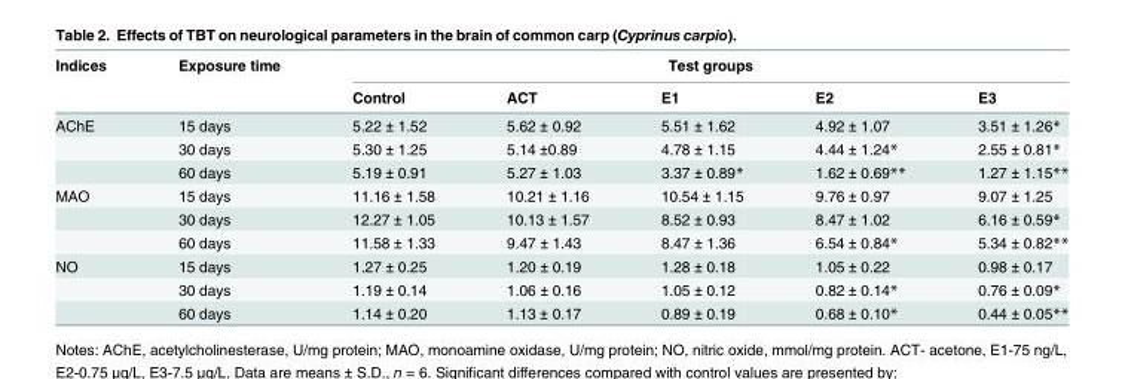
<table><thead><tr><td rowspan="2">Indices</td><td rowspan="2">Exposure time</td><td colspan="5">Test groups</td></tr><tr><td>Control</td><td>ACT</td><td>E1</td><td>E2</td><td>E3</td></tr></thead><tbody><tr><td rowspan="3">AChE</td><td>15 days</td><td>5.22 ± 1.52</td><td>5.62 ± 0.92</td><td>5.51 ± 1.62</td><td>4.92 ± 1.07</td><td>3.51 ± 1.26*</td></tr><tr><td>30 days</td><td>5.30 ± 1.25</td><td>5.14 ±0.89</td><td>4.78 ± 1.15</td><td>4.44 ± 1.24*</td><td>2.55 ± 0.81*</td></tr><tr><td>60 days</td><td>5.19 ± 0.91</td><td>5.27 ± 1.03</td><td>3.37 ± 0.89*</td><td>1.62 ± 0.69**</td><td>1.27 ± 1.15**</td></tr><tr><td rowspan="3">MAO</td><td>15 days</td><td>11.16 ± 1.58</td><td>10.21 ± 1.16</td><td>10.54 ± 1.15</td><td>9.76 ± 0.97</td><td>9.07 ± 1.25</td></tr><tr><td>30 days</td><td>12.27 ± 1.05</td><td>10.13 ± 1.57</td><td>8.52 ± 0.93</td><td>8.47 ± 1.02</td><td>6.16 ± 0.59*</td></tr><tr><td>60 days</td><td>11.58 ± 1.33</td><td>9.47 ± 1.43</td><td>8.47 ± 1.36</td><td>6.54 ± 0.84*</td><td>5.34 ± 0.82**</td></tr><tr><td rowspan="3">NO</td><td>15 days</td><td>1.27 ± 0.25</td><td>1.20 ± 0.19</td><td>1.28 ± 0.18</td><td>1.05 ± 0.22</td><td>0.98 ± 0.17</td></tr><tr><td>30 days</td><td>1.19 ± 0.14</td><td>1.06 ± 0.16</td><td>1.05 ± 0.12</td><td>0.82 ± 0.14*</td><td>0.76 ± 0.09*</td></tr><tr><td>60 days</td><td>1.14 ± 0.20</td><td>1.13 ± 0.17</td><td>0.89 ± 0.19</td><td>0.68 ± 0.10*</td><td>0.44 ± 0.05**</td></tr></tbody></table>